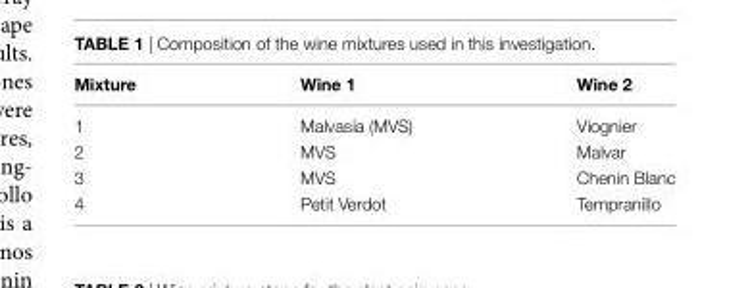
<table><thead><tr><td>Mixture</td><td>Wine 1</td><td>Wine 2</td></tr></thead><tbody><tr><td>1</td><td>Malvasía (MVS)</td><td>Viognier</td></tr><tr><td>2</td><td>MVS</td><td>Malvar</td></tr><tr><td>3</td><td>MVS</td><td>Chenin Blanc</td></tr><tr><td>4</td><td>Petit Verdot</td><td>Tempranillo</td></tr></tbody></table>